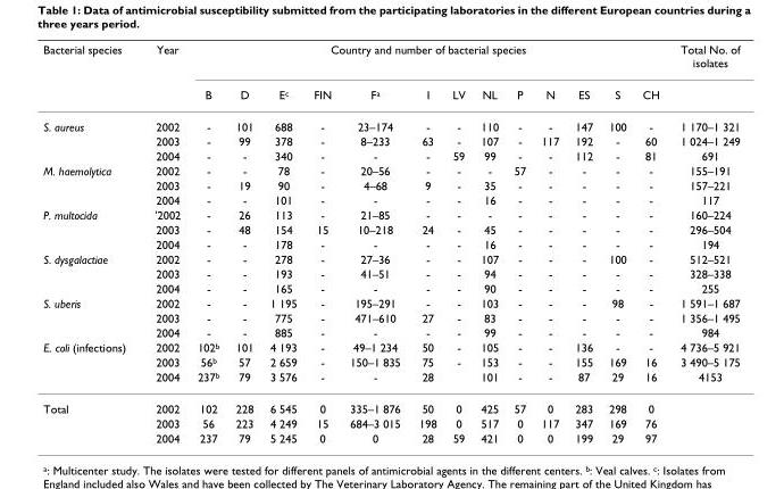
<table><thead><tr><td rowspan="2">Bacterial species</td><td rowspan="2">Year</td><td colspan="13">Country and number of bacterial species</td><td rowspan="2">Total No. of isolates</td></tr><tr><td>B</td><td>D</td><td>E<sup>c</sup></td><td>FIN</td><td>F<sup>a</sup></td><td>I</td><td>LV</td><td>NL</td><td>P</td><td>N</td><td>ES</td><td>S</td><td>CH</td></tr></thead><tbody><tr><td rowspan="3">S. aureus</td><td>2002</td><td>-</td><td>101</td><td>688</td><td>-</td><td>23–174</td><td>-</td><td>-</td><td>110</td><td>-</td><td>-</td><td>147</td><td>100</td><td>-</td><td>1 170–1 321</td></tr><tr><td>2003</td><td>-</td><td>99</td><td>378</td><td>-</td><td>8–233</td><td>63</td><td>-</td><td>107</td><td>-</td><td>117</td><td>192</td><td>-</td><td>60</td><td>1 024–1 249</td></tr><tr><td>2004</td><td>-</td><td>-</td><td>340</td><td>-</td><td>-</td><td>-</td><td>59</td><td>99</td><td>-</td><td>-</td><td>112</td><td>-</td><td>81</td><td>691</td></tr><tr><td rowspan="3">M. haemolytica</td><td>2002</td><td>-</td><td>-</td><td>78</td><td>-</td><td>20–56</td><td>-</td><td>-</td><td>-</td><td>57</td><td>-</td><td>-</td><td>-</td><td>-</td><td>155–191</td></tr><tr><td>2003</td><td>-</td><td>19</td><td>90</td><td>-</td><td>4–68</td><td>9</td><td>-</td><td>35</td><td>-</td><td>-</td><td>-</td><td>-</td><td>-</td><td>157–221</td></tr><tr><td>2004</td><td>-</td><td>-</td><td>101</td><td>-</td><td>-</td><td>-</td><td>-</td><td>16</td><td>-</td><td>-</td><td>-</td><td>-</td><td>-</td><td>117</td></tr><tr><td rowspan="3">P. multocida</td><td>&#x27;2002</td><td>-</td><td>26</td><td>113</td><td>-</td><td>21–85</td><td>-</td><td>-</td><td>-</td><td>-</td><td>-</td><td>-</td><td>-</td><td>-</td><td>160–224</td></tr><tr><td>2003</td><td>-</td><td>48</td><td>154</td><td>15</td><td>10–218</td><td>24</td><td>-</td><td>45</td><td>-</td><td>-</td><td>-</td><td>-</td><td>-</td><td>296–504</td></tr><tr><td>2004</td><td>-</td><td>-</td><td>178</td><td>-</td><td>-</td><td>-</td><td>-</td><td>16</td><td>-</td><td>-</td><td>-</td><td>-</td><td>-</td><td>194</td></tr><tr><td rowspan="3">S. dysgalactiae</td><td>2002</td><td>-</td><td>-</td><td>278</td><td>-</td><td>27–36</td><td>-</td><td>-</td><td>107</td><td>-</td><td>-</td><td>-</td><td>100</td><td>-</td><td>512–521</td></tr><tr><td>2003</td><td>-</td><td>-</td><td>193</td><td>-</td><td>41–51</td><td>-</td><td>-</td><td>94</td><td>-</td><td>-</td><td>-</td><td>-</td><td>-</td><td>328–338</td></tr><tr><td>2004</td><td>-</td><td>-</td><td>165</td><td>-</td><td>-</td><td>-</td><td>-</td><td>90</td><td>-</td><td>-</td><td>-</td><td>-</td><td>-</td><td>255</td></tr><tr><td rowspan="3">S. uberis</td><td>2002</td><td>-</td><td>-</td><td>1 195</td><td>-</td><td>195–291</td><td>-</td><td>-</td><td>103</td><td>-</td><td>-</td><td>-</td><td>98</td><td>-</td><td>1 591–1 687</td></tr><tr><td>2003</td><td>-</td><td>-</td><td>775</td><td>-</td><td>471–610</td><td>27</td><td>-</td><td>83</td><td>-</td><td>-</td><td>-</td><td>-</td><td>-</td><td>1 356–1 495</td></tr><tr><td>2004</td><td>-</td><td>-</td><td>885</td><td>-</td><td>-</td><td>-</td><td>-</td><td>99</td><td>-</td><td>-</td><td>-</td><td>-</td><td>-</td><td>984</td></tr><tr><td rowspan="3">E. coli (infections)</td><td>2002</td><td>102<sup>b</sup></td><td>101</td><td>4 193</td><td>-</td><td>49–1 234</td><td>50</td><td>-</td><td>105</td><td>-</td><td>-</td><td>136</td><td>-</td><td>-</td><td>4 736–5 921</td></tr><tr><td>2003</td><td>56<sup>b</sup></td><td>57</td><td>2 659</td><td>-</td><td>150–1 835</td><td>75</td><td>-</td><td>153</td><td>-</td><td>-</td><td>155</td><td>169</td><td>16</td><td>3 490–5 175</td></tr><tr><td>2004</td><td>237<sup>b</sup></td><td>79</td><td>3 576</td><td>-</td><td>-</td><td>28</td><td></td><td>101</td><td>-</td><td>-</td><td>87</td><td>29</td><td>16</td><td>4153</td></tr><tr><td rowspan="3">Total</td><td>2002</td><td>102</td><td>228</td><td>6 545</td><td>0</td><td>335–1 876</td><td>50</td><td>0</td><td>425</td><td>57</td><td>0</td><td>283</td><td>298</td><td>0</td><td></td></tr><tr><td>2003</td><td>56</td><td>223</td><td>4 249</td><td>15</td><td>684–3 015</td><td>198</td><td>0</td><td>517</td><td>0</td><td>117</td><td>347</td><td>169</td><td>76</td><td></td></tr><tr><td>2004</td><td>237</td><td>79</td><td>5 245</td><td>0</td><td>0</td><td>28</td><td>59</td><td>421</td><td>0</td><td>0</td><td>199</td><td>29</td><td>97</td><td></td></tr></tbody></table>